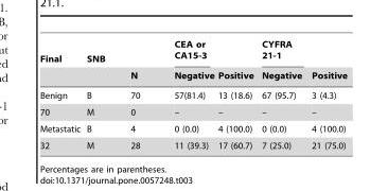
<table><thead><tr><td rowspan="2">Final</td><td rowspan="2">SNB</td><td rowspan="2">N</td><td rowspan="2">CEA or CA15-3 Negative</td><td rowspan="2">Positive</td><td rowspan="2">CYFRA 21-1 Negative</td><td rowspan="2">Positive</td></tr><tr></tr></thead><tbody><tr><td>Benign</td><td>B</td><td>70</td><td>57(81.4)</td><td>13 (18.6)</td><td>67 (95.7)</td><td>3 (4.3)</td></tr><tr><td>70</td><td>M</td><td>0</td><td>–</td><td>–</td><td>–</td><td>–</td></tr><tr><td>Metastatic</td><td>B</td><td>4</td><td>0 (0.0)</td><td>4 (100.0)</td><td>0 (0.0)</td><td>4 (100.0)</td></tr><tr><td>32</td><td>M</td><td>28</td><td>11 (39.3)</td><td>17 (60.7)</td><td>7 (25.0)</td><td>21 (75.0)</td></tr></tbody></table>